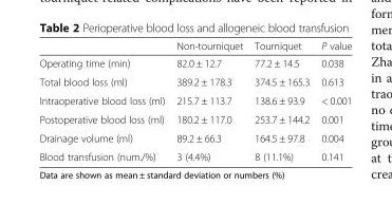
<table><thead><tr><td></td><td>Non-tourniquet</td><td>Tourniquet</td><td>P value</td></tr></thead><tbody><tr><td>Operating time (min)</td><td>82.0 ± 12.7</td><td>77.2 ± 14.5</td><td>0.038</td></tr><tr><td>Total blood loss (ml)</td><td>389.2 ± 178.3</td><td>374.5 ± 165.3</td><td>0.613</td></tr><tr><td>Intraoperative blood loss (ml)</td><td>215.7 ± 113.7</td><td>138.6 ± 93.9</td><td>&lt; 0.001</td></tr><tr><td>Postoperative blood loss (ml)</td><td>180.2 ± 117.0</td><td>253.7 ± 144.2</td><td>0.001</td></tr><tr><td>Drainage volume (ml)</td><td>89.2 ± 66.3</td><td>164.5 ± 97.8</td><td>0.004</td></tr><tr><td>Blood transfusion (num./%)</td><td>3 (4.4%)</td><td>8 (11.1%)</td><td>0.141</td></tr></tbody></table>